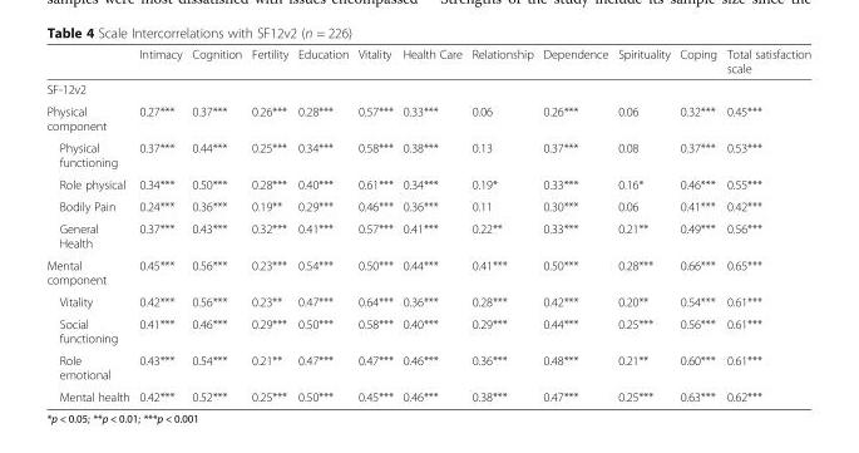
<table><thead><tr><td></td><td>Intimacy</td><td>Cognition</td><td>Fertility</td><td>Education</td><td>Vitality</td><td>Health Care</td><td>Relationship</td><td>Dependence</td><td>Spirituality</td><td>Coping</td><td>Total satisfaction scale</td></tr></thead><tbody><tr><td colspan="12">SF-12v2</td></tr><tr><td>Physical component</td><td>0.27***</td><td>0.37***</td><td>0.26***</td><td>0.28***</td><td>0.57***</td><td>0.33***</td><td>0.06</td><td>0.26***</td><td>0.06</td><td>0.32***</td><td>0.45***</td></tr><tr><td>Physical functioning</td><td>0.37***</td><td>0.44***</td><td>0.25***</td><td>0.34***</td><td>0.58***</td><td>0.38***</td><td>0.13</td><td>0.37***</td><td>0.08</td><td>0.37***</td><td>0.53***</td></tr><tr><td>Role physical</td><td>0.34***</td><td>0.50***</td><td>0.28***</td><td>0.40***</td><td>0.61***</td><td>0.34***</td><td>0.19*</td><td>0.33***</td><td>0.16*</td><td>0.46***</td><td>0.55***</td></tr><tr><td>Bodily Pain</td><td>0.24***</td><td>0.36***</td><td>0.19**</td><td>0.29***</td><td>0.46***</td><td>0.36***</td><td>0.11</td><td>0.30***</td><td>0.06</td><td>0.41***</td><td>0.42***</td></tr><tr><td>General Health</td><td>0.37***</td><td>0.43***</td><td>0.32***</td><td>0.41***</td><td>0.57***</td><td>0.41***</td><td>0.22**</td><td>0.33***</td><td>0.21**</td><td>0.49***</td><td>0.56***</td></tr><tr><td>Mental component</td><td>0.45***</td><td>0.56***</td><td>0.23***</td><td>0.54***</td><td>0.50***</td><td>0.44***</td><td>0.41***</td><td>0.50***</td><td>0.28***</td><td>0.66***</td><td>0.65***</td></tr><tr><td>Vitality</td><td>0.42***</td><td>0.56***</td><td>0.23**</td><td>0.47***</td><td>0.64***</td><td>0.36***</td><td>0.28***</td><td>0.42***</td><td>0.20**</td><td>0.54***</td><td>0.61***</td></tr><tr><td>Social functioning</td><td>0.41***</td><td>0.46***</td><td>0.29***</td><td>0.50***</td><td>0.58***</td><td>0.40***</td><td>0.29***</td><td>0.44***</td><td>0.25***</td><td>0.56***</td><td>0.61***</td></tr><tr><td>Role emotional</td><td>0.43***</td><td>0.54***</td><td>0.21**</td><td>0.47***</td><td>0.47***</td><td>0.46***</td><td>0.36***</td><td>0.48***</td><td>0.21**</td><td>0.60***</td><td>0.61***</td></tr><tr><td>Mental health</td><td>0.42***</td><td>0.52***</td><td>0.25***</td><td>0.50***</td><td>0.45***</td><td>0.46***</td><td>0.38***</td><td>0.47***</td><td>0.25***</td><td>0.63***</td><td>0.62***</td></tr></tbody></table>